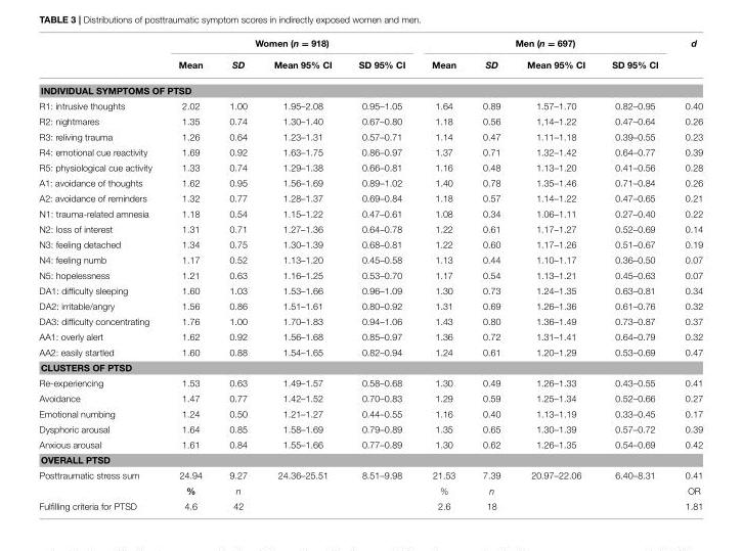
<table><thead><tr><td rowspan="2"></td><td colspan="4">Women (n = 918)</td><td colspan="4">Men (n = 697)</td><td rowspan="2">d</td></tr><tr><td>Mean</td><td>SD</td><td>Mean 95% CI</td><td>SD 95% CI</td><td>Mean</td><td>SD</td><td>Mean 95% CI</td><td>SD 95% CI</td></tr></thead><tbody><tr><td colspan="10">INDIVIDUAL SYMPTOMS OF PTSD</td></tr><tr><td>R1: intrusive thoughts</td><td>2.02</td><td>1.00</td><td>1.95–2.08</td><td>0.95–1.05</td><td>1.64</td><td>0.89</td><td>1.57–1.70</td><td>0.82–0.95</td><td>0.40</td></tr><tr><td>R2: nightmares</td><td>1.35</td><td>0.74</td><td>1.30–1.40</td><td>0.67–0.80</td><td>1.18</td><td>0.56</td><td>1,14–1.22</td><td>0.47–0.64</td><td>0.26</td></tr><tr><td>R3: reliving trauma</td><td>1.26</td><td>0.64</td><td>1.23–1.31</td><td>0.57–0.71</td><td>1.14</td><td>0.47</td><td>1.11–1.18</td><td>0.39–0.55</td><td>0.23</td></tr><tr><td>R4: emotional cue reactivity</td><td>1.69</td><td>0.92</td><td>1.63–1.75</td><td>0.86–0.97</td><td>1.37</td><td>0.71</td><td>1.32–1.42</td><td>0.64–0.77</td><td>0.39</td></tr><tr><td>R5: physiological cue activity</td><td>1.33</td><td>0.74</td><td>1.29–1.38</td><td>0.66–0.81</td><td>1.16</td><td>0.48</td><td>1.13–1.20</td><td>0.41–0.56</td><td>0.28</td></tr><tr><td>A1: avoidance of thoughts</td><td>1.62</td><td>0.95</td><td>1.56–1.69</td><td>0.89–1.02</td><td>1.40</td><td>0.78</td><td>1.35–1.46</td><td>0.71–0.84</td><td>0.26</td></tr><tr><td>A2: avoidance of reminders</td><td>1.32</td><td>0.77</td><td>1.28–1.37</td><td>0.69–0.84</td><td>1.18</td><td>0.57</td><td>1.14–1.22</td><td>0.47–0.65</td><td>0.21</td></tr><tr><td>N1: trauma-related amnesia</td><td>1.18</td><td>0.54</td><td>1.15–1.22</td><td>0.47–0.61</td><td>1.08</td><td>0.34</td><td>1.06–1.11</td><td>0.27–0.40</td><td>0.22</td></tr><tr><td>N2: loss of interest</td><td>1.31</td><td>0.71</td><td>1.27–1.36</td><td>0.64–0.78</td><td>1.22</td><td>0.61</td><td>1.17–1.27</td><td>0.52–0.69</td><td>0.14</td></tr><tr><td>N3: feeling detached</td><td>1.34</td><td>0.75</td><td>1.30–1.39</td><td>0.68–0.81</td><td>1.22</td><td>0.60</td><td>1.17–1.26</td><td>0.51–0.67</td><td>0.19</td></tr><tr><td>N4: feeling numb</td><td>1.17</td><td>0.52</td><td>1.13–1.20</td><td>0.45–0.58</td><td>1.13</td><td>0.44</td><td>1.10–1.17</td><td>0.36–0.50</td><td>0.07</td></tr><tr><td>N5: hopelessness</td><td>1.21</td><td>0.63</td><td>1.16–1.25</td><td>0.53–0.70</td><td>1.17</td><td>0.54</td><td>1.13–1.21</td><td>0.45–0.63</td><td>0.07</td></tr><tr><td>DA1: difficulty sleeping</td><td>1.60</td><td>1.03</td><td>1.53–1.66</td><td>0.96–1.09</td><td>1.30</td><td>0.73</td><td>1.24–1.35</td><td>0.63–0.81</td><td>0.34</td></tr><tr><td>DA2: irritable/angry</td><td>1.56</td><td>0.86</td><td>1.51–1.61</td><td>0.80–0.92</td><td>1.31</td><td>0.69</td><td>1.26–1.36</td><td>0.61–0.76</td><td>0.32</td></tr><tr><td>DA3: difficulty concentrating</td><td>1.76</td><td>1.00</td><td>1.70–1.83</td><td>0.94–1.06</td><td>1.43</td><td>0.80</td><td>1.36–1.49</td><td>0.73–0.87</td><td>0.37</td></tr><tr><td>AA1: overly alert</td><td>1.62</td><td>0.92</td><td>1.56–1.68</td><td>0.85–0.97</td><td>1.36</td><td>0.72</td><td>1.31–1.41</td><td>0.64–0.79</td><td>0.32</td></tr><tr><td>AA2: easily startled</td><td>1.60</td><td>0.88</td><td>1.54–1.65</td><td>0.82–0.94</td><td>1.24</td><td>0.61</td><td>1.20–1.29</td><td>0.53–0.69</td><td>0.47</td></tr><tr><td colspan="10">CLUSTERS OF PTSD</td></tr><tr><td>Re-experiencing</td><td>1.53</td><td>0.63</td><td>1.49–1.57</td><td>0.58–0.68</td><td>1.30</td><td>0.49</td><td>1.26–1.33</td><td>0.43–0.55</td><td>0.41</td></tr><tr><td>Avoidance</td><td>1.47</td><td>0.77</td><td>1.42–1.52</td><td>0.70–0.83</td><td>1.29</td><td>0.59</td><td>1.25–1.34</td><td>0.52–0.66</td><td>0.27</td></tr><tr><td>Emotional numbing</td><td>1.24</td><td>0.50</td><td>1.21–1.27</td><td>0.44–0.55</td><td>1.16</td><td>0.40</td><td>1.13–1.19</td><td>0.33–0.45</td><td>0.17</td></tr><tr><td>Dysphoric arousal</td><td>1.64</td><td>0.85</td><td>1.58–1.69</td><td>0.79–0.89</td><td>1.35</td><td>0.65</td><td>1.30–1.39</td><td>0.57–0.72</td><td>0.39</td></tr><tr><td>Anxious arousal</td><td>1.61</td><td>0.84</td><td>1.55–1.66</td><td>0.77–0.89</td><td>1.30</td><td>0.62</td><td>1.26–1.35</td><td>0.54–0.69</td><td>0.42</td></tr><tr><td colspan="10">OVERALL PTSD</td></tr><tr><td rowspan="2">Posttraumatic stress sum</td><td>24.94</td><td>9.27</td><td>24.36–25.51</td><td>8.51–9.98</td><td>21.53</td><td>7.39</td><td>20.97–22.06</td><td>6.40–8.31</td><td>0.41</td></tr><tr><td>%</td><td>n</td><td></td><td></td><td>%</td><td>n</td><td></td><td></td><td>OR</td></tr><tr><td>Fulfilling criteria for PTSD</td><td>4.6</td><td>42</td><td></td><td></td><td>2.6</td><td>18</td><td></td><td></td><td>1.81</td></tr></tbody></table>